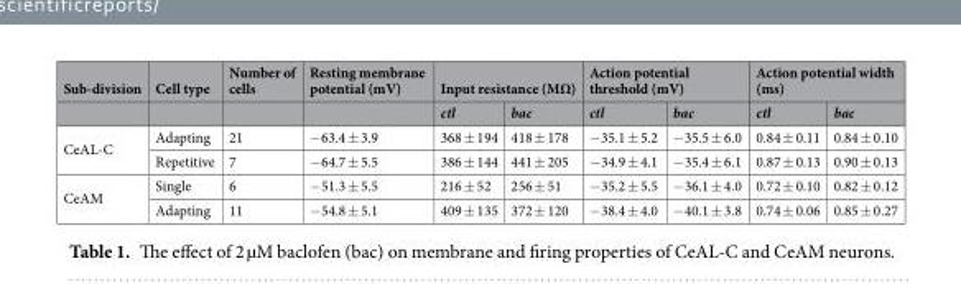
<table><thead><tr><td rowspan="2">Sub-division</td><td rowspan="2">Cell type</td><td rowspan="2">Number of cells</td><td rowspan="2">Resting membrane potential (mV)</td><td colspan="2">Input resistance (MΩ)</td><td colspan="2">Action potential threshold (mV)</td><td colspan="2">Action potential width (ms)</td></tr><tr><td>ctl</td><td>bac</td><td>ctl</td><td>bac</td><td>ctl</td><td>bac</td></tr></thead><tbody><tr><td rowspan="2">CeAL-C</td><td>Adapting</td><td>21</td><td>−63.4 ± 3.9</td><td>368 ± 194</td><td>418 ± 178</td><td>−35.1 ± 5.2</td><td>−35.5 ± 6.0</td><td>0.84 ± 0.11</td><td>0.84 ± 0.10</td></tr><tr><td>Repetitive</td><td>7</td><td>−64.7 ± 5.5</td><td>386 ± 144</td><td>441 ± 205</td><td>−34.9 ± 4.1</td><td>−35.4 ± 6.1</td><td>0.87 ± 0.13</td><td>0.90 ± 0.13</td></tr><tr><td rowspan="2">CeAM</td><td>Single</td><td>6</td><td>−51.3 ± 5.5</td><td>216 ± 52</td><td>256 ± 51</td><td>−35.2 ± 5.5</td><td>−36.1 ± 4.0</td><td>0.72 ± 0.10</td><td>0.82 ± 0.12</td></tr><tr><td>Adapting</td><td>11</td><td>−54.8 ± 5.1</td><td>409 ± 135</td><td>372 ± 120</td><td>−38.4 ± 4.0</td><td>−40.1 ± 3.8</td><td>0.74 ± 0.06</td><td>0.85 ± 0.27</td></tr></tbody></table>